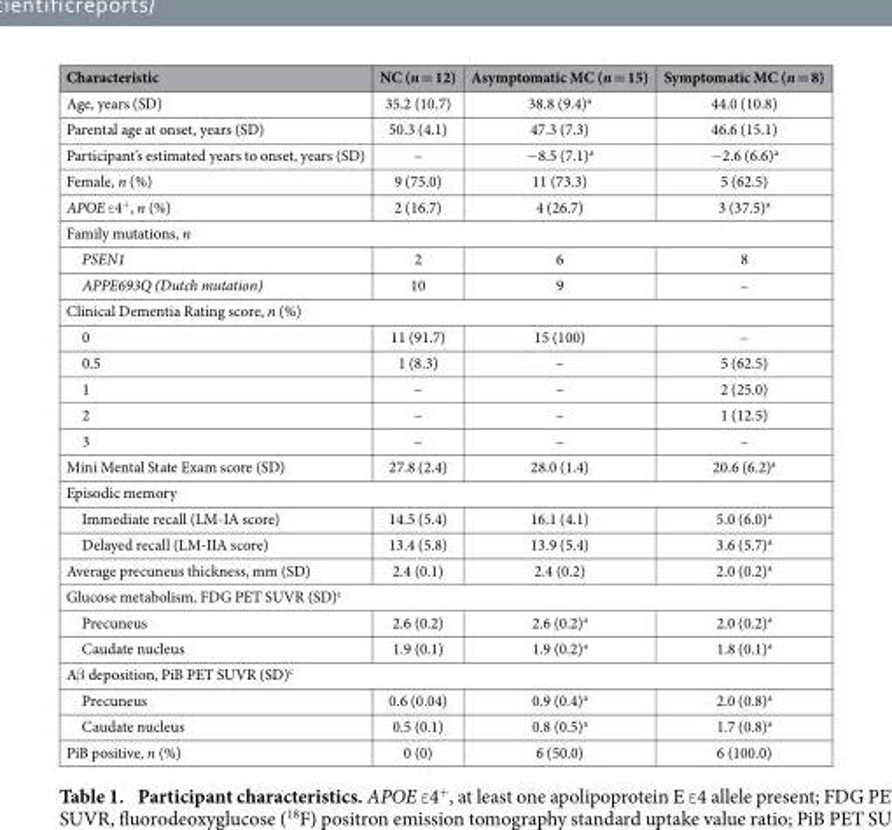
<table><thead><tr><td>Characteristic</td><td>NC (n = 12)</td><td>Asymptomatic MC (n = 15)</td><td>Symptomatic MC (n = 8)</td></tr></thead><tbody><tr><td>Age, years (SD)</td><td>35.2 (10.7)</td><td>38.8 (9.4)<sup>a</sup></td><td>44.0 (10.8)</td></tr><tr><td>Parental age at onset, years (SD)</td><td>50.3 (4.1)</td><td>47.3 (7.3)</td><td>46.6 (15.1)</td></tr><tr><td>Participant’s estimated years to onset, years (SD)</td><td>–</td><td>− 8.5 (7.1)<sup>a</sup></td><td>− 2.6 (6.6)<sup>a</sup></td></tr><tr><td>Female, n (%)</td><td>9 (75.0)</td><td>11 (73.3)</td><td>5 (62.5)</td></tr><tr><td>APOE ε 4<sup>+</sup>, n (%)</td><td>2 (16.7)</td><td>4 (26.7)</td><td>3 (37.5)<sup>a</sup></td></tr><tr><td colspan="4">Family mutations, n</td></tr><tr><td>PSEN1</td><td>2</td><td>6</td><td>8</td></tr><tr><td>APPE693Q (Dutch mutation)</td><td>10</td><td>9</td><td>–</td></tr><tr><td colspan="4">Clinical Dementia Rating score, n (%)</td></tr><tr><td>0</td><td>11 (91.7)</td><td>15 (100)</td><td>–</td></tr><tr><td>0.5</td><td>1 (8.3)</td><td>–</td><td>5 (62.5)</td></tr><tr><td>1</td><td>–</td><td>–</td><td>2 (25.0)</td></tr><tr><td>2</td><td>–</td><td>–</td><td>1 (12.5)</td></tr><tr><td>3</td><td>–</td><td>–</td><td>–</td></tr><tr><td>Mini Mental State Exam score (SD)</td><td>27.8 (2.4)</td><td>28.0 (1.4)</td><td>20.6 (6.2)<sup>a</sup></td></tr><tr><td colspan="4">Episodic memory</td></tr><tr><td>Immediate recall (LM-IA score)</td><td>14.5 (5.4)</td><td>16.1 (4.1)</td><td>5.0 (6.0)<sup>a</sup></td></tr><tr><td>Delayed recall (LM-IIA score)</td><td>13.4 (5.8)</td><td>13.9 (5.4)</td><td>3.6 (5.7)<sup>a</sup></td></tr><tr><td>Average precuneus thickness, mm (SD)</td><td>2.4 (0.1)</td><td>2.4 (0.2)</td><td>2.0 (0.2)<sup>a</sup></td></tr><tr><td colspan="4">Glucose metabolism, FDG PET SUVR (SD)<sup>c</sup></td></tr><tr><td>Precuneus</td><td>2.6 (0.2)</td><td>2.6 (0.2)<sup>a</sup></td><td>2.0 (0.2)<sup>a</sup></td></tr><tr><td>Caudate nucleus</td><td>1.9 (0.1)</td><td>1.9 (0.2)<sup>a</sup></td><td>1.8 (0.1)<sup>a</sup></td></tr><tr><td colspan="4">Aβ deposition, PiB PET SUVR (SD)<sup>c</sup></td></tr><tr><td>Precuneus</td><td>0.6 (0.04)</td><td>0.9 (0.4)<sup>a</sup></td><td>2.0 (0.8)<sup>a</sup></td></tr><tr><td>Caudate nucleus</td><td>0.5 (0.1)</td><td>0.8 (0.5)<sup>a</sup></td><td>1.7 (0.8)<sup>a</sup></td></tr><tr><td>PiB positive, n (%)</td><td>0 (0)</td><td>6 (50.0)</td><td>6 (100.0)</td></tr></tbody></table>